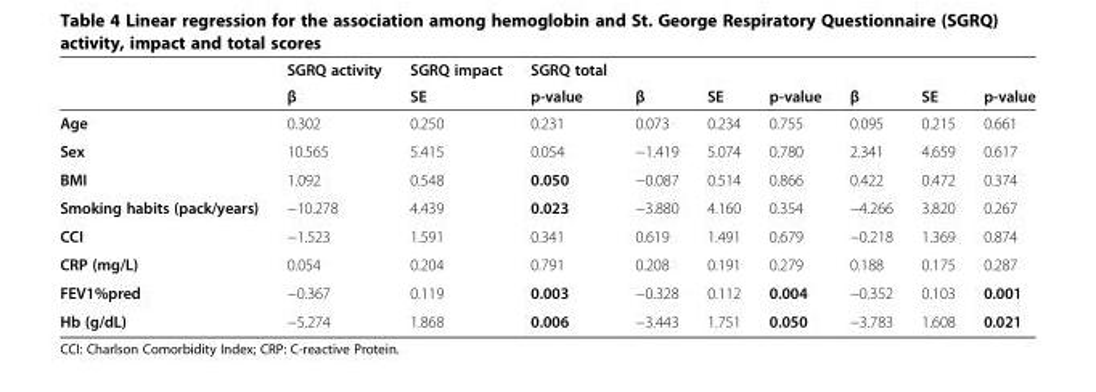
<table><thead><tr><td rowspan="2"></td><td rowspan="2">SGRQ activity β</td><td rowspan="2">SGRQ impact SE</td><td rowspan="2">SGRQ total p-value</td><td rowspan="2">β</td><td rowspan="2">SE</td><td rowspan="2">p-value</td><td rowspan="2">β</td><td rowspan="2">SE</td><td rowspan="2">p-value</td></tr><tr></tr></thead><tbody><tr><td>Age</td><td>0.302</td><td>0.250</td><td>0.231</td><td>0.073</td><td>0.234</td><td>0.755</td><td>0.095</td><td>0.215</td><td>0.661</td></tr><tr><td>Sex</td><td>10.565</td><td>5.415</td><td>0.054</td><td>−1.419</td><td>5.074</td><td>0.780</td><td>2.341</td><td>4.659</td><td>0.617</td></tr><tr><td>BMI</td><td>1.092</td><td>0.548</td><td>0.050</td><td>−0.087</td><td>0.514</td><td>0.866</td><td>0.422</td><td>0.472</td><td>0.374</td></tr><tr><td>Smoking habits (pack/years)</td><td>−10.278</td><td>4.439</td><td>0.023</td><td>−3.880</td><td>4.160</td><td>0.354</td><td>−4.266</td><td>3.820</td><td>0.267</td></tr><tr><td>CCI</td><td>−1.523</td><td>1.591</td><td>0.341</td><td>0.619</td><td>1.491</td><td>0.679</td><td>−0.218</td><td>1.369</td><td>0.874</td></tr><tr><td>CRP (mg/L)</td><td>0.054</td><td>0.204</td><td>0.791</td><td>0.208</td><td>0.191</td><td>0.279</td><td>0.188</td><td>0.175</td><td>0.287</td></tr><tr><td>FEV1%pred</td><td>−0.367</td><td>0.119</td><td>0.003</td><td>−0.328</td><td>0.112</td><td>0.004</td><td>−0.352</td><td>0.103</td><td>0.001</td></tr><tr><td>Hb (g/dL)</td><td>−5.274</td><td>1.868</td><td>0.006</td><td>−3.443</td><td>1.751</td><td>0.050</td><td>−3.783</td><td>1.608</td><td>0.021</td></tr></tbody></table>